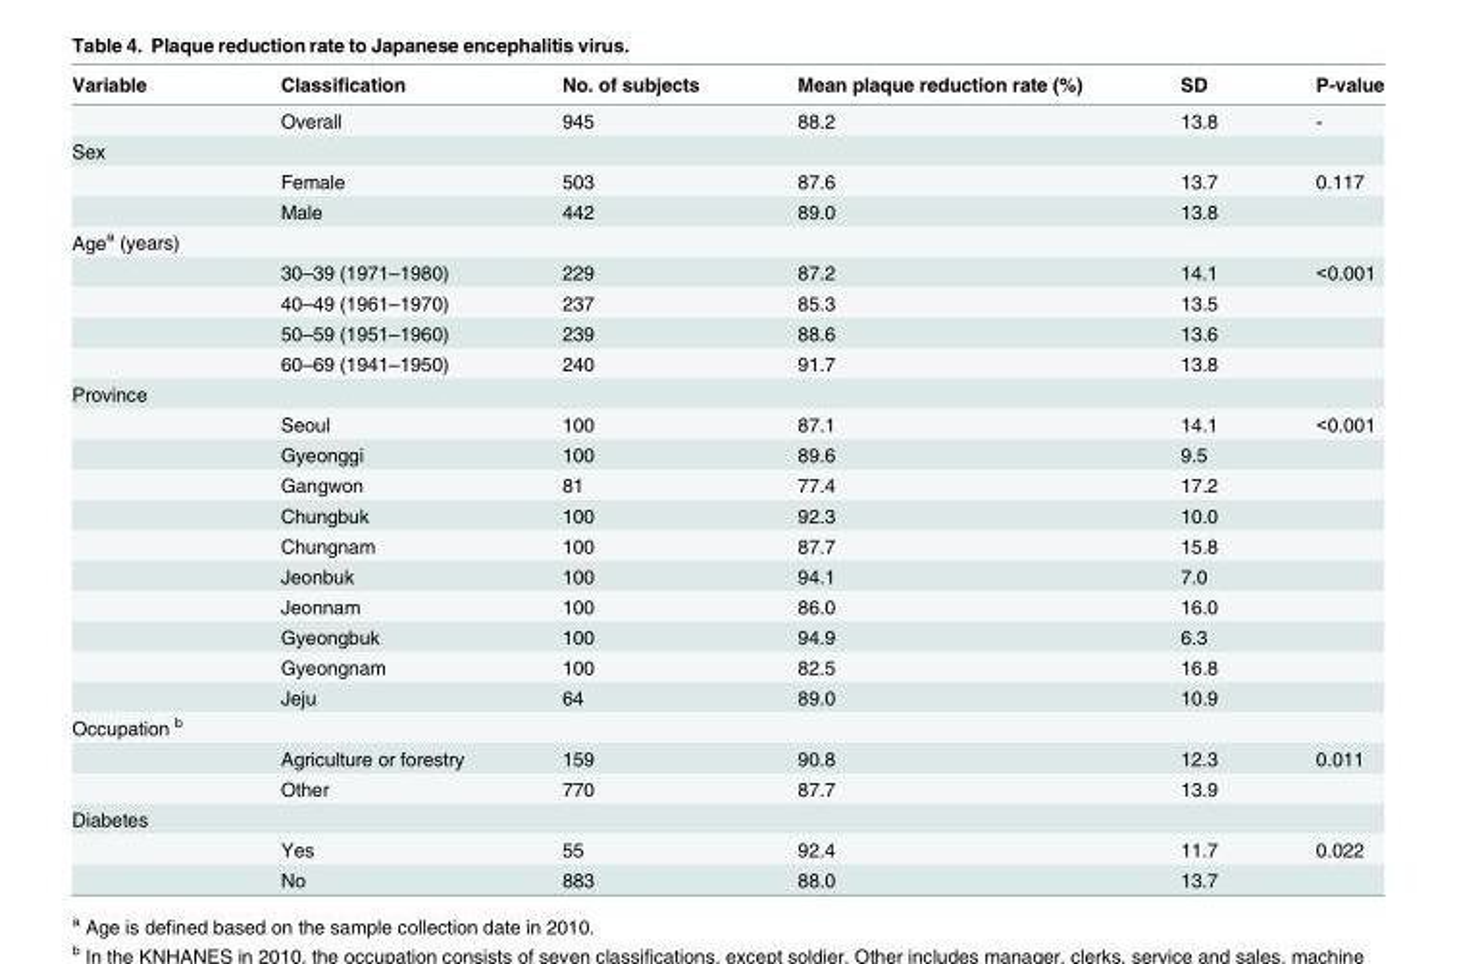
<table><thead><tr><td>Variable</td><td>Classification</td><td>No. of subjects</td><td>Mean plaque reduction rate (%)</td><td>SD</td><td>P-value</td></tr></thead><tbody><tr><td></td><td>Overall</td><td>945</td><td>88.2</td><td>13.8</td><td>-</td></tr><tr><td colspan="6">Sex</td></tr><tr><td></td><td>Female</td><td>503</td><td>87.6</td><td>13.7</td><td>0.117</td></tr><tr><td></td><td>Male</td><td>442</td><td>89.0</td><td>13.8</td><td></td></tr><tr><td colspan="6">Age<sup>a</sup> (years)</td></tr><tr><td></td><td>30–39 (1971–1980)</td><td>229</td><td>87.2</td><td>14.1</td><td>&lt;0.001</td></tr><tr><td></td><td>40–49 (1961–1970)</td><td>237</td><td>85.3</td><td>13.5</td><td></td></tr><tr><td></td><td>50–59 (1951–1960)</td><td>239</td><td>88.6</td><td>13.6</td><td></td></tr><tr><td></td><td>60–69 (1941–1950)</td><td>240</td><td>91.7</td><td>13.8</td><td></td></tr><tr><td colspan="6">Province</td></tr><tr><td></td><td>Seoul</td><td>100</td><td>87.1</td><td>14.1</td><td>&lt;0.001</td></tr><tr><td></td><td>Gyeonggi</td><td>100</td><td>89.6</td><td>9.5</td><td></td></tr><tr><td></td><td>Gangwon</td><td>81</td><td>77.4</td><td>17.2</td><td></td></tr><tr><td></td><td>Chungbuk</td><td>100</td><td>92.3</td><td>10.0</td><td></td></tr><tr><td></td><td>Chungnam</td><td>100</td><td>87.7</td><td>15.8</td><td></td></tr><tr><td></td><td>Jeonbuk</td><td>100</td><td>94.1</td><td>7.0</td><td></td></tr><tr><td></td><td>Jeonnam</td><td>100</td><td>86.0</td><td>16.0</td><td></td></tr><tr><td></td><td>Gyeongbuk</td><td>100</td><td>94.9</td><td>6.3</td><td></td></tr><tr><td></td><td>Gyeongnam</td><td>100</td><td>82.5</td><td>16.8</td><td></td></tr><tr><td></td><td>Jeju</td><td>64</td><td>89.0</td><td>10.9</td><td></td></tr><tr><td colspan="6">Occupation <sup>b</sup></td></tr><tr><td></td><td>Agriculture or forestry</td><td>159</td><td>90.8</td><td>12.3</td><td>0.011</td></tr><tr><td></td><td>Other</td><td>770</td><td>87.7</td><td>13.9</td><td></td></tr><tr><td colspan="6">Diabetes</td></tr><tr><td></td><td>Yes</td><td>55</td><td>92.4</td><td>11.7</td><td>0.022</td></tr><tr><td></td><td>No</td><td>883</td><td>88.0</td><td>13.7</td><td></td></tr></tbody></table>